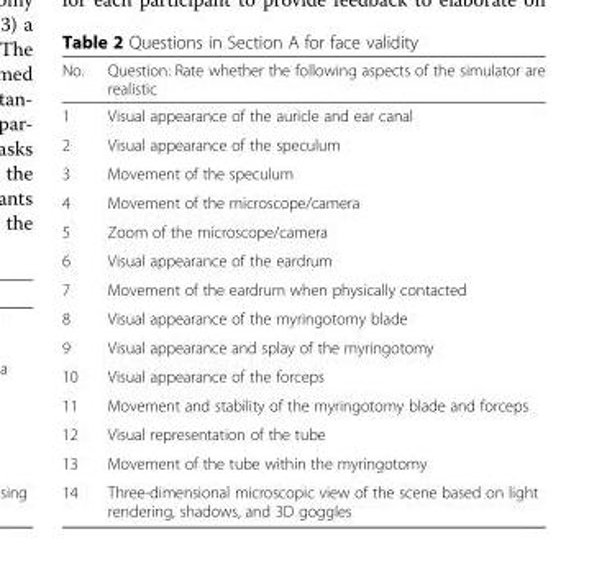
<table><thead><tr><td>No.</td><td>Question: Rate whether the following aspects of the simulator are realistic</td></tr></thead><tbody><tr><td>1</td><td>Visual appearance of the auricle and ear canal</td></tr><tr><td>2</td><td>Visual appearance of the speculum</td></tr><tr><td>3</td><td>Movement of the speculum</td></tr><tr><td>4</td><td>Movement of the microscope/camera</td></tr><tr><td>5</td><td>Zoom of the microscope/camera</td></tr><tr><td>6</td><td>Visual appearance of the eardrum</td></tr><tr><td>7</td><td>Movement of the eardrum when physically contacted</td></tr><tr><td>8</td><td>Visual appearance of the myringotomy blade</td></tr><tr><td>9</td><td>Visual appearance and splay of the myringotomy</td></tr><tr><td>10</td><td>Visual appearance of the forceps</td></tr><tr><td>11</td><td>Movement and stability of the myringotomy blade and forceps</td></tr><tr><td>12</td><td>Visual representation of the tube</td></tr><tr><td>13</td><td>Movement of the tube within the myringotomy</td></tr><tr><td>14</td><td>Three-dimensional microscopic view of the scene based on light rendering, shadows, and 3D goggles</td></tr></tbody></table>